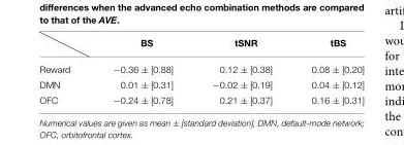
<table><thead><tr><td></td><td>BS</td><td>tSNR</td><td>tBS</td></tr></thead><tbody><tr><td>Reward</td><td>−0.36 ± [0.88]</td><td>0.12 ± [0.38]</td><td>0.08 ± [0.20]</td></tr><tr><td>DMN</td><td>0.01 ± [0.31]</td><td>−0.02 ± [0.19]</td><td>0.04 ± [0.12]</td></tr><tr><td>OFC</td><td>−0.24 ± [0.78]</td><td>0.21 ± [0.37]</td><td>0.16 ± [0.31]</td></tr></tbody></table>